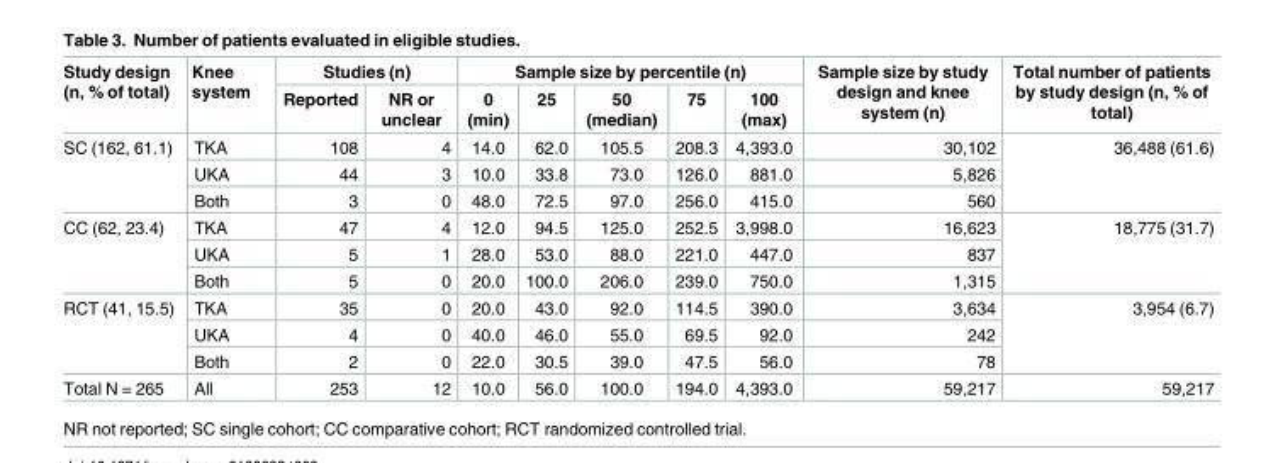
<table><thead><tr><td rowspan="2">Study design (n, % of total)</td><td rowspan="2">Knee system</td><td colspan="2">Studies (n)</td><td colspan="5">Sample size by percentile (n)</td><td rowspan="2">Sample size by study design and knee system (n)</td><td rowspan="2">Total number of patients by study design (n, % of total)</td></tr><tr><td>Reported</td><td>NR or unclear</td><td>0 (min)</td><td>25</td><td>50 (median)</td><td>75</td><td>100 (max)</td></tr></thead><tbody><tr><td rowspan="3">SC (162, 61.1)</td><td>TKA</td><td>108</td><td>4</td><td>14.0</td><td>62.0</td><td>105.5</td><td>208.3</td><td>4,393.0</td><td>30,102</td><td rowspan="3">36,488 (61.6)</td></tr><tr><td>UKA</td><td>44</td><td>3</td><td>10.0</td><td>33.8</td><td>73.0</td><td>126.0</td><td>881.0</td><td>5,826</td></tr><tr><td>Both</td><td>3</td><td>0</td><td>48.0</td><td>72.5</td><td>97.0</td><td>256.0</td><td>415.0</td><td>560</td></tr><tr><td rowspan="3">CC (62, 23.4)</td><td>TKA</td><td>47</td><td>4</td><td>12.0</td><td>94.5</td><td>125.0</td><td>252.5</td><td>3,998.0</td><td>16,623</td><td rowspan="3">18,775 (31.7)</td></tr><tr><td>UKA</td><td>5</td><td>1</td><td>28.0</td><td>53.0</td><td>88.0</td><td>221.0</td><td>447.0</td><td>837</td></tr><tr><td>Both</td><td>5</td><td>0</td><td>20.0</td><td>100.0</td><td>206.0</td><td>239.0</td><td>750.0</td><td>1,315</td></tr><tr><td rowspan="3">RCT (41, 15.5)</td><td>TKA</td><td>35</td><td>0</td><td>20.0</td><td>43.0</td><td>92.0</td><td>114.5</td><td>390.0</td><td>3,634</td><td rowspan="3">3,954 (6.7)</td></tr><tr><td>UKA</td><td>4</td><td>0</td><td>40.0</td><td>46.0</td><td>55.0</td><td>69.5</td><td>92.0</td><td>242</td></tr><tr><td>Both</td><td>2</td><td>0</td><td>22.0</td><td>30.5</td><td>39.0</td><td>47.5</td><td>56.0</td><td>78</td></tr><tr><td>Total N = 265</td><td>All</td><td>253</td><td>12</td><td>10.0</td><td>56.0</td><td>100.0</td><td>194.0</td><td>4,393.0</td><td>59,217</td><td>59,217</td></tr></tbody></table>